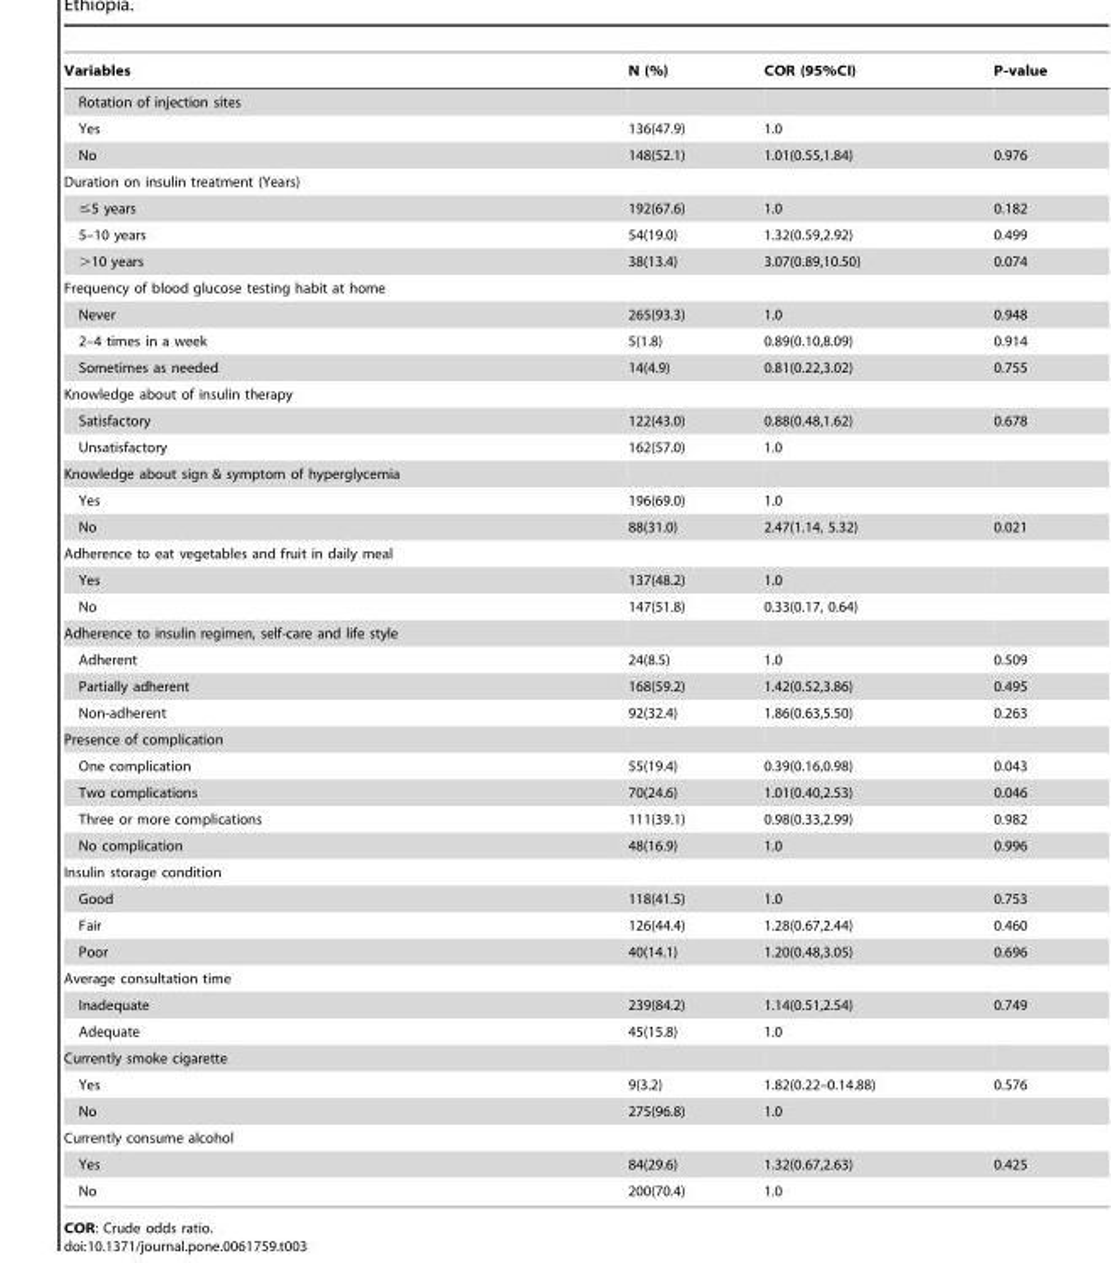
<table><thead><tr><td>Variables</td><td>N (%)</td><td>COR (95%CI)</td><td>P-value</td></tr></thead><tbody><tr><td colspan="4">Rotation of injection sites</td></tr><tr><td>Yes</td><td>136(47.9)</td><td>1.0</td><td></td></tr><tr><td>No</td><td>148(52.1)</td><td>1.01(0.55,1.84)</td><td>0.976</td></tr><tr><td colspan="4">Duration on insulin treatment (Years)</td></tr><tr><td>≤5 years</td><td>192(67.6)</td><td>1.0</td><td>0.182</td></tr><tr><td>5–10 years</td><td>54(19.0)</td><td>1.32(0.59,2.92)</td><td>0.499</td></tr><tr><td>&gt;10 years</td><td>38(13.4)</td><td>3.07(0.89,10.50)</td><td>0.074</td></tr><tr><td colspan="4">Frequency of blood glucose testing habit at home</td></tr><tr><td>Never</td><td>265(93.3)</td><td>1.0</td><td>0.948</td></tr><tr><td>2–4 times in a week</td><td>5(1.8)</td><td>0.89(0.10,8.09)</td><td>0.914</td></tr><tr><td>Sometimes as needed</td><td>14(4.9)</td><td>0.81(0.22,3.02)</td><td>0.755</td></tr><tr><td colspan="4">Knowledge about of insulin therapy</td></tr><tr><td>Satisfactory</td><td>122(43.0)</td><td>0.88(0.48,1.62)</td><td>0.678</td></tr><tr><td>Unsatisfactory</td><td>162(57.0)</td><td>1.0</td><td></td></tr><tr><td colspan="4">Knowledge about sign &amp; symptom of hyperglycemia</td></tr><tr><td>Yes</td><td>196(69.0)</td><td>1.0</td><td></td></tr><tr><td>No</td><td>88(31.0)</td><td>2.47(1.14, 5.32)</td><td>0.021</td></tr><tr><td colspan="4">Adherence to eat vegetables and fruit in daily meal</td></tr><tr><td>Yes</td><td>137(48.2)</td><td>1.0</td><td></td></tr><tr><td>No</td><td>147(51.8)</td><td>0.33(0.17, 0.64)</td><td></td></tr><tr><td colspan="4">Adherence to insulin regimen, self-care and life style</td></tr><tr><td>Adherent</td><td>24(8.5)</td><td>1.0</td><td>0.509</td></tr><tr><td>Partially adherent</td><td>168(59.2)</td><td>1.42(0.52,3.86)</td><td>0.495</td></tr><tr><td>Non-adherent</td><td>92(32.4)</td><td>1.86(0.63,5.50)</td><td>0.263</td></tr><tr><td colspan="4">Presence of complication</td></tr><tr><td>One complication</td><td>55(19.4)</td><td>0.39(0.16,0.98)</td><td>0.043</td></tr><tr><td>Two complications</td><td>70(24.6)</td><td>1.01(0.40,2.53)</td><td>0.046</td></tr><tr><td>Three or more complications</td><td>111(39.1)</td><td>0.98(0.33,2.99)</td><td>0.982</td></tr><tr><td>No complication</td><td>48(16.9)</td><td>1.0</td><td>0.996</td></tr><tr><td colspan="4">Insulin storage condition</td></tr><tr><td>Good</td><td>118(41.5)</td><td>1.0</td><td>0.753</td></tr><tr><td>Fair</td><td>126(44.4)</td><td>1.28(0.67,2.44)</td><td>0.460</td></tr><tr><td>Poor</td><td>40(14.1)</td><td>1.20(0.48,3.05)</td><td>0.696</td></tr><tr><td colspan="4">Average consultation time</td></tr><tr><td>Inadequate</td><td>239(84.2)</td><td>1.14(0.51,2.54)</td><td>0.749</td></tr><tr><td>Adequate</td><td>45(15.8)</td><td>1.0</td><td></td></tr><tr><td colspan="4">Currently smoke cigarette</td></tr><tr><td>Yes</td><td>9(3.2)</td><td>1.82(0.22–0.14.88)</td><td>0.576</td></tr><tr><td>No</td><td>275(96.8)</td><td>1.0</td><td></td></tr><tr><td colspan="4">Currently consume alcohol</td></tr><tr><td>Yes</td><td>84(29.6)</td><td>1.32(0.67,2.63)</td><td>0.425</td></tr><tr><td>No</td><td>200(70.4)</td><td>1.0</td><td></td></tr></tbody></table>